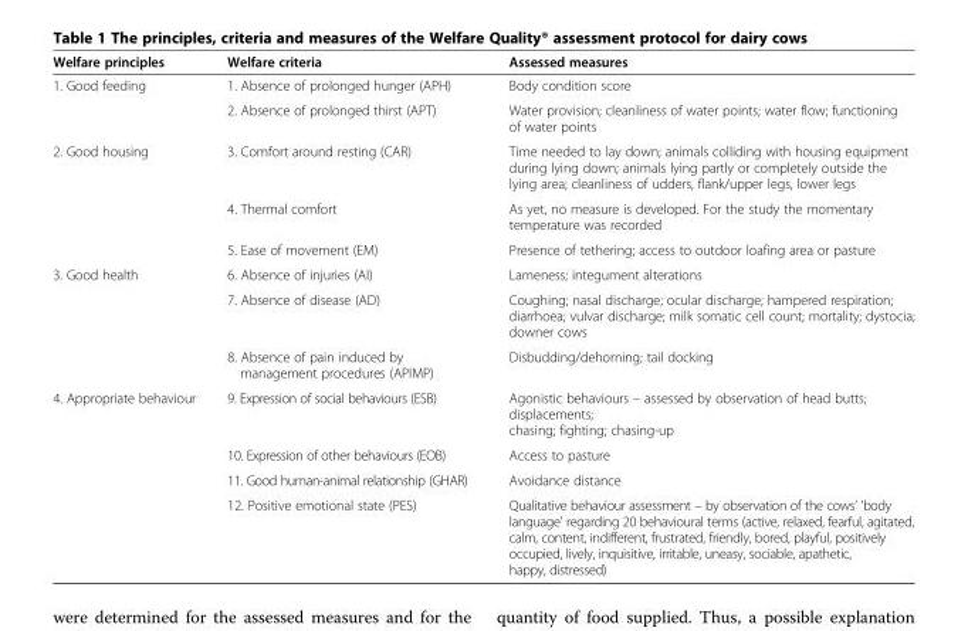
<table><thead><tr><td>Welfare principles</td><td>Welfare criteria</td><td>Assessed measures</td></tr></thead><tbody><tr><td rowspan="2">1. Good feeding</td><td>1. Absence of prolonged hunger (APH)</td><td>Body condition score</td></tr><tr><td>2. Absence of prolonged thirst (APT)</td><td>Water provision; cleanliness of water points; water flow; functioning of water points</td></tr><tr><td rowspan="3">2. Good housing</td><td>3. Comfort around resting (CAR)</td><td>Time needed to lay down; animals colliding with housing equipment during lying down; animals lying partly or completely outside the lying area; cleanliness of udders, flank/upper legs, lower legs</td></tr><tr><td>4. Thermal comfort</td><td>As yet, no measure is developed. For the study the momentary temperature was recorded</td></tr><tr><td>5. Ease of movement (EM)</td><td>Presence of tethering; access to outdoor loafing area or pasture</td></tr><tr><td rowspan="3">3. Good health</td><td>6. Absence of injuries (AI)</td><td>Lameness; integument alterations</td></tr><tr><td>7. Absence of disease (AD)</td><td>Coughing; nasal discharge; ocular discharge; hampered respiration; diarrhoea; vulvar discharge; milk somatic cell count; mortality; dystocia; downer cows</td></tr><tr><td>8. Absence of pain induced by management procedures (APIMP)</td><td>Disbudding/dehorning; tail docking</td></tr><tr><td rowspan="4">4. Appropriate behaviour</td><td>9. Expression of social behaviours (ESB)</td><td>Agonistic behaviours – assessed by observation of head butts; displacements; chasing; fighting; chasing-up</td></tr><tr><td>10. Expression of other behaviours (EOB)</td><td>Access to pasture</td></tr><tr><td>11. Good human-animal relationship (GHAR)</td><td>Avoidance distance</td></tr><tr><td>12. Positive emotional state (PES)</td><td>Qualitative behaviour assessment – by observation of the cows’ &#x27;body language&#x27; regarding 20 behavioural terms (active, relaxed, fearful, agitated, calm, content, indifferent, frustrated, friendly, bored, playful, positively occupied, lively, inquisitive, irritable, uneasy, sociable, apathetic, happy, distressed)</td></tr></tbody></table>